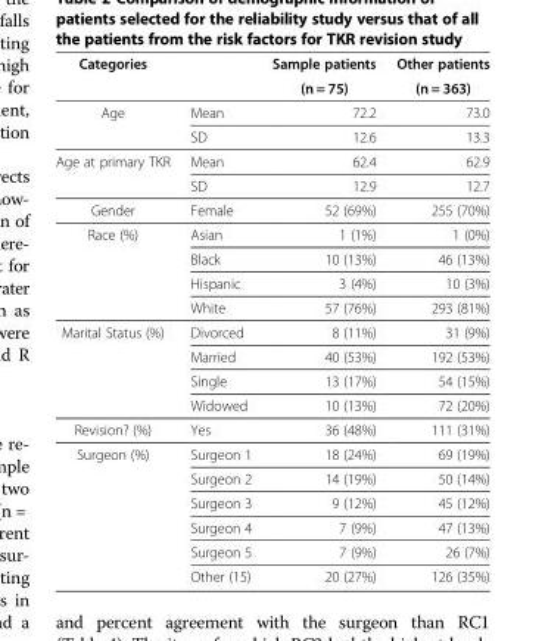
<table><thead><tr><td rowspan="2">Categories</td><td rowspan="2"></td><td rowspan="2">Sample patients (n = 75)</td><td rowspan="2">Other patients (n = 363)</td></tr><tr></tr></thead><tbody><tr><td rowspan="2">Age</td><td>Mean</td><td>72.2</td><td>73.0</td></tr><tr><td>SD</td><td>12.6</td><td>13.3</td></tr><tr><td rowspan="2">Age at primary TKR</td><td>Mean</td><td>62.4</td><td>62.9</td></tr><tr><td>SD</td><td>12.9</td><td>12.7</td></tr><tr><td>Gender</td><td>Female</td><td>52 (69%)</td><td>255 (70%)</td></tr><tr><td rowspan="4">Race (%)</td><td>Asian</td><td>1 (1%)</td><td>1 (0%)</td></tr><tr><td>Black</td><td>10 (13%)</td><td>46 (13%)</td></tr><tr><td>Hispanic</td><td>3 (4%)</td><td>10 (3%)</td></tr><tr><td>White</td><td>57 (76%)</td><td>293 (81%)</td></tr><tr><td rowspan="4">Marital Status (%)</td><td>Divorced</td><td>8 (11%)</td><td>31 (9%)</td></tr><tr><td>Married</td><td>40 (53%)</td><td>192 (53%)</td></tr><tr><td>Single</td><td>13 (17%)</td><td>54 (15%)</td></tr><tr><td>Widowed</td><td>10 (13%)</td><td>72 (20%)</td></tr><tr><td>Revision? (%)</td><td>Yes</td><td>36 (48%)</td><td>111 (31%)</td></tr><tr><td rowspan="6">Surgeon (%)</td><td>Surgeon 1</td><td>18 (24%)</td><td>69 (19%)</td></tr><tr><td>Surgeon 2</td><td>14 (19%)</td><td>50 (14%)</td></tr><tr><td>Surgeon 3</td><td>9 (12%)</td><td>45 (12%)</td></tr><tr><td>Surgeon 4</td><td>7 (9%)</td><td>47 (13%)</td></tr><tr><td>Surgeon 5</td><td>7 (9%)</td><td>26 (7%)</td></tr><tr><td>Other (15)</td><td>20 (27%)</td><td>126 (35%)</td></tr></tbody></table>